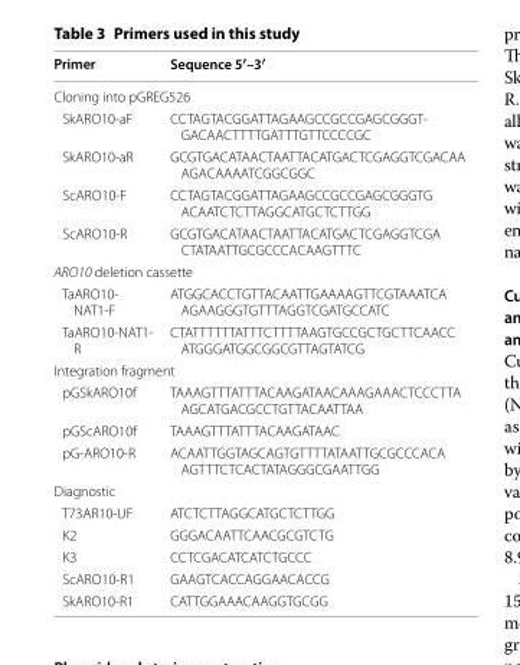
<table><thead><tr><td>Primer</td><td>Sequence 5′–3′</td></tr></thead><tbody><tr><td colspan="2">Cloning into pGREG526</td></tr><tr><td>SkARO10‑aF</td><td>CCTAGTACGGATTAGAAGCCGCCGAGCGGGT‑ GACAACTTTTGATTTGTTCCCCGC</td></tr><tr><td>SkARO10‑aR</td><td>GCGTGACATAACTAATTACATGACTCGAGGTCGACAA AGACAAAATCGGCGGC</td></tr><tr><td>ScARO10‑F</td><td>CCTAGTACGGATTAGAAGCCGCCGAGCGGGTG ACAATCTCTTAGGCATGCTCTTGG</td></tr><tr><td>ScARO10‑R</td><td>GCGTGACATAACTAATTACATGACTCGAGGTCGA CTATAATTGCGCCCACAAGTTTC</td></tr><tr><td colspan="2">ARO10 deletion cassette</td></tr><tr><td>TaARO10‑ NAT1‑F</td><td>ATGGCACCTGTTACAATTGAAAAGTTCGTAAATCA AGAAGGGTGTTTAGGTCGATGCCATC</td></tr><tr><td>TaARO10‑NAT1‑ R</td><td>CTATTTTTTATTTCTTTTAAGTGCCGCTGCTTCAACC ATGGGATGGCGGCGTTAGTATCG</td></tr><tr><td colspan="2">Integration fragment</td></tr><tr><td>pGSkARO10f</td><td>TAAAGTTTATTTACAAGATAACAAAGAAACTCCCTTA AGCATGACGCCTGTTACAATTAA</td></tr><tr><td>pGScARO10f</td><td>TAAAGTTTATTTACAAGATAAC</td></tr><tr><td>pG‑ARO10‑R</td><td>ACAATTGGTAGCAGTGTTTTATAATTGCGCCCACA AGTTTCTCACTATAGGGCGAATTGG</td></tr><tr><td colspan="2">Diagnostic</td></tr><tr><td>T73AR10‑UF</td><td>ATCTCTTAGGCATGCTCTTGG</td></tr><tr><td>K2</td><td>GGGACAATTCAACGCGTCTG</td></tr><tr><td>K3</td><td>CCTCGACATCATCTGCCC</td></tr><tr><td>ScARO10‑R1</td><td>GAAGTCACCAGGAACACCG</td></tr><tr><td>SkARO10‑R1</td><td>CATTGGAAACAAGGTGCGG</td></tr></tbody></table>